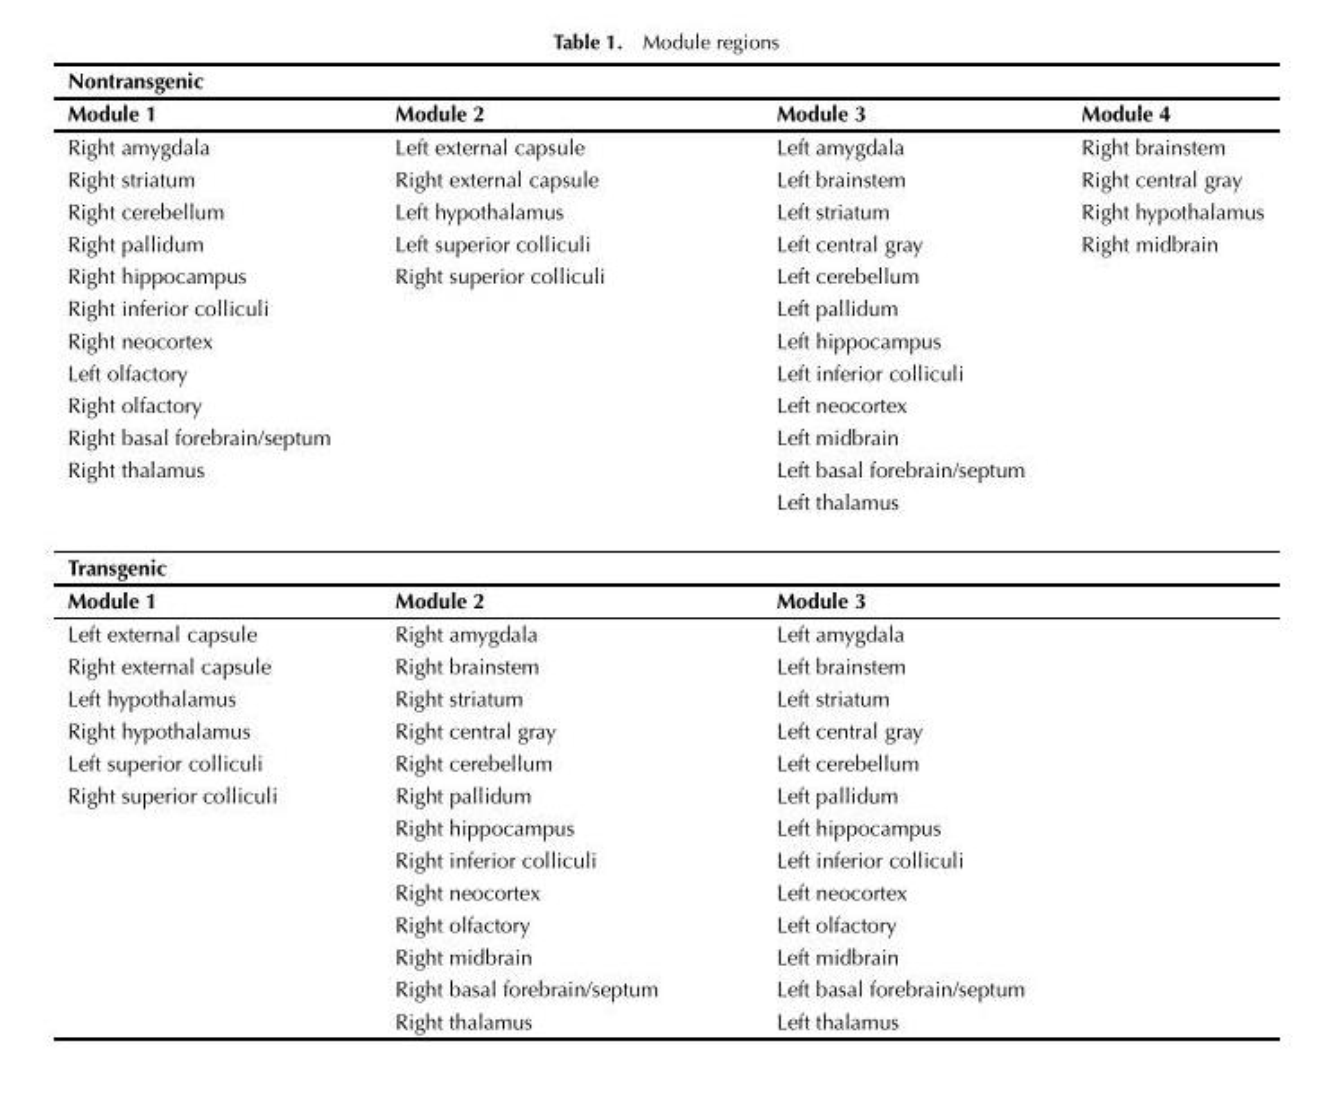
<table><thead><tr><td colspan="4">Nontransgenic</td></tr><tr><td>Module 1</td><td>Module 2</td><td>Module 3</td><td>Module 4</td></tr></thead><tbody><tr><td>Right amygdala</td><td>Left external capsule</td><td>Left amygdala</td><td>Right brainstem</td></tr><tr><td>Right striatum</td><td>Right external capsule</td><td>Left brainstem</td><td>Right central gray</td></tr><tr><td>Right cerebellum</td><td>Left hypothalamus</td><td>Left striatum</td><td>Right hypothalamus</td></tr><tr><td>Right pallidum</td><td>Left superior colliculi</td><td>Left central gray</td><td>Right midbrain</td></tr><tr><td>Right hippocampus</td><td>Right superior colliculi</td><td>Left cerebellum</td><td></td></tr><tr><td>Right inferior colliculi</td><td></td><td>Left pallidum</td><td></td></tr><tr><td>Right neocortex</td><td></td><td>Left hippocampus</td><td></td></tr><tr><td>Left olfactory</td><td></td><td>Left inferior colliculi</td><td></td></tr><tr><td>Right olfactory</td><td></td><td>Left neocortex</td><td></td></tr><tr><td>Right basal forebrain/septum</td><td></td><td>Left midbrain</td><td></td></tr><tr><td rowspan="2">Right thalamus</td><td></td><td>Left basal forebrain/septum</td><td></td></tr><tr><td></td><td>Left thalamus</td><td></td></tr><tr><td colspan="4">Transgenic</td></tr><tr><td>Module 1</td><td>Module 2</td><td>Module 3</td><td></td></tr><tr><td>Left external capsule</td><td>Right amygdala</td><td>Left amygdala</td><td></td></tr><tr><td>Right external capsule</td><td>Right brainstem</td><td>Left brainstem</td><td></td></tr><tr><td>Left hypothalamus</td><td>Right striatum</td><td>Left striatum</td><td></td></tr><tr><td>Right hypothalamus</td><td>Right central gray</td><td>Left central gray</td><td></td></tr><tr><td>Left superior colliculi</td><td>Right cerebellum</td><td>Left cerebellum</td><td></td></tr><tr><td rowspan="8">Right superior colliculi</td><td>Right pallidum</td><td>Left pallidum</td><td></td></tr><tr><td>Right hippocampus</td><td>Left hippocampus</td><td></td></tr><tr><td>Right inferior colliculi</td><td>Left inferior colliculi</td><td></td></tr><tr><td>Right neocortex</td><td>Left neocortex</td><td></td></tr><tr><td>Right olfactory</td><td>Left olfactory</td><td></td></tr><tr><td>Right midbrain</td><td>Left midbrain</td><td></td></tr><tr><td>Right basal forebrain/septum</td><td>Left basal forebrain/septum</td><td></td></tr><tr><td>Right thalamus</td><td>Left thalamus</td><td></td></tr></tbody></table>